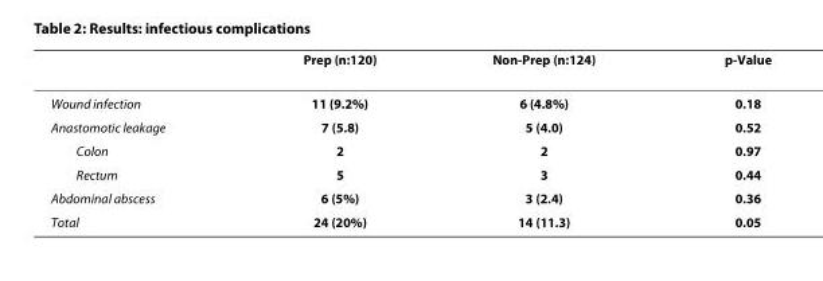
<table><thead><tr><td></td><td>Prep (n:120)</td><td>Non-Prep (n:124)</td><td>p-Value</td></tr></thead><tbody><tr><td>Wound infection</td><td>11 (9.2%)</td><td>6 (4.8%)</td><td>0.18</td></tr><tr><td>Anastomotic leakage</td><td>7 (5.8)</td><td>5 (4.0)</td><td>0.52</td></tr><tr><td>Colon</td><td>2</td><td>2</td><td>0.97</td></tr><tr><td>Rectum</td><td>5</td><td>3</td><td>0.44</td></tr><tr><td>Abdominal abscess</td><td>6 (5%)</td><td>3 (2.4)</td><td>0.36</td></tr><tr><td>Total</td><td>24 (20%)</td><td>14 (11.3)</td><td>0.05</td></tr></tbody></table>